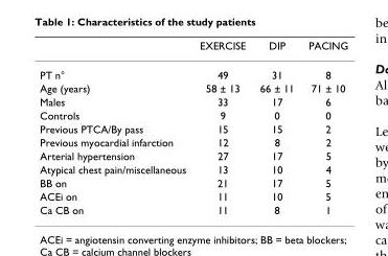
<table><thead><tr><td></td><td>EXERCISE</td><td>DIP</td><td>PACING</td></tr></thead><tbody><tr><td>PT n°</td><td>49</td><td>31</td><td>8</td></tr><tr><td>Age (years)</td><td>58 ± 13</td><td>66 ± 11</td><td>71 ± 10</td></tr><tr><td>Males</td><td>33</td><td>17</td><td>6</td></tr><tr><td>Controls</td><td>9</td><td>0</td><td>0</td></tr><tr><td>Previous PTCA/By pass</td><td>15</td><td>15</td><td>2</td></tr><tr><td>Previous myocardial infarction</td><td>12</td><td>8</td><td>2</td></tr><tr><td>Arterial hypertension</td><td>27</td><td>17</td><td>5</td></tr><tr><td>Atypical chest pain/miscellaneous</td><td>13</td><td>10</td><td>4</td></tr><tr><td>BB on</td><td>21</td><td>17</td><td>5</td></tr><tr><td>ACEi on</td><td>11</td><td>10</td><td>5</td></tr><tr><td>Ca CB on</td><td>11</td><td>8</td><td>1</td></tr></tbody></table>